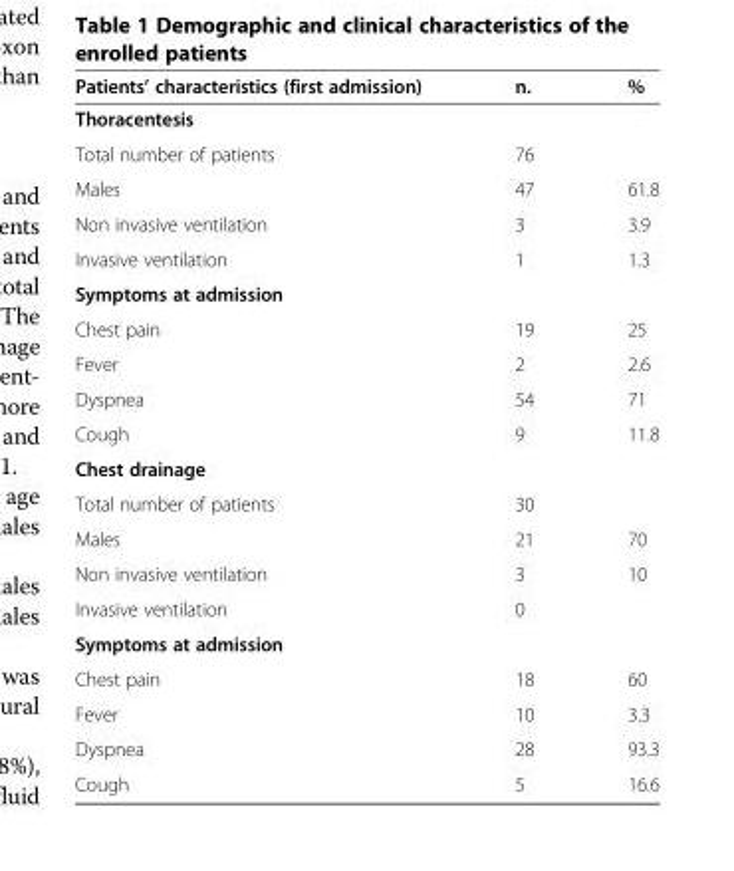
<table><thead><tr><td>Patients’ characteristics (first admission)</td><td>n.</td><td>%</td></tr></thead><tbody><tr><td colspan="3">Thoracentesis</td></tr><tr><td>Total number of patients</td><td>76</td><td></td></tr><tr><td>Males</td><td>47</td><td>61.8</td></tr><tr><td>Non invasive ventilation</td><td>3</td><td>3.9</td></tr><tr><td>Invasive ventilation</td><td>1</td><td>1.3</td></tr><tr><td colspan="3">Symptoms at admission</td></tr><tr><td>Chest pain</td><td>19</td><td>25</td></tr><tr><td>Fever</td><td>2</td><td>2.6</td></tr><tr><td>Dyspnea</td><td>54</td><td>71</td></tr><tr><td>Cough</td><td>9</td><td>11.8</td></tr><tr><td colspan="3">Chest drainage</td></tr><tr><td>Total number of patients</td><td>30</td><td></td></tr><tr><td>Males</td><td>21</td><td>70</td></tr><tr><td>Non invasive ventilation</td><td>3</td><td>10</td></tr><tr><td>Invasive ventilation</td><td>0</td><td></td></tr><tr><td colspan="3">Symptoms at admission</td></tr><tr><td>Chest pain</td><td>18</td><td>60</td></tr><tr><td>Fever</td><td>10</td><td>3.3</td></tr><tr><td>Dyspnea</td><td>28</td><td>93.3</td></tr><tr><td>Cough</td><td>5</td><td>16.6</td></tr></tbody></table>